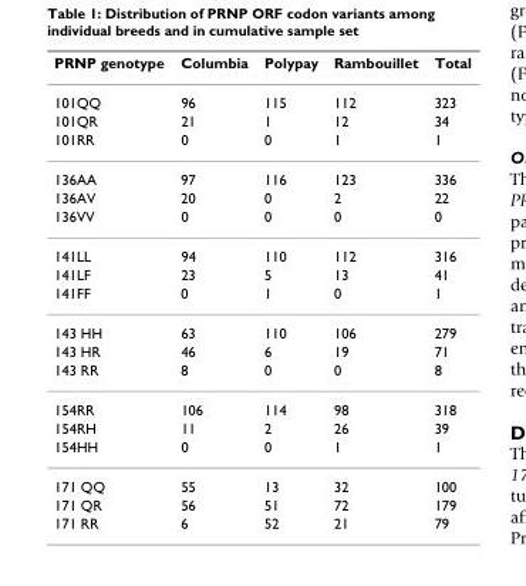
<table><thead><tr><td>PRNP genotype</td><td>Columbia</td><td>Polypay</td><td>Rambouillet</td><td>Total</td></tr></thead><tbody><tr><td>101QQ</td><td>96</td><td>115</td><td>112</td><td>323</td></tr><tr><td>101QR</td><td>21</td><td>1</td><td>12</td><td>34</td></tr><tr><td>101RR</td><td>0</td><td>0</td><td>1</td><td>1</td></tr><tr><td>136AA</td><td>97</td><td>116</td><td>123</td><td>336</td></tr><tr><td>136AV</td><td>20</td><td>0</td><td>2</td><td>22</td></tr><tr><td>136VV</td><td>0</td><td>0</td><td>0</td><td>0</td></tr><tr><td>141LL</td><td>94</td><td>110</td><td>112</td><td>316</td></tr><tr><td>141LF</td><td>23</td><td>5</td><td>13</td><td>41</td></tr><tr><td>141FF</td><td>0</td><td>1</td><td>0</td><td>1</td></tr><tr><td>143 HH</td><td>63</td><td>110</td><td>106</td><td>279</td></tr><tr><td>143 HR</td><td>46</td><td>6</td><td>19</td><td>71</td></tr><tr><td>143 RR</td><td>8</td><td>0</td><td>0</td><td>8</td></tr><tr><td>154RR</td><td>106</td><td>114</td><td>98</td><td>318</td></tr><tr><td>154RH</td><td>11</td><td>2</td><td>26</td><td>39</td></tr><tr><td>154HH</td><td>0</td><td>0</td><td>1</td><td>1</td></tr><tr><td>171 QQ</td><td>55</td><td>13</td><td>32</td><td>100</td></tr><tr><td>171 QR</td><td>56</td><td>51</td><td>72</td><td>179</td></tr><tr><td>171 RR</td><td>6</td><td>52</td><td>21</td><td>79</td></tr></tbody></table>